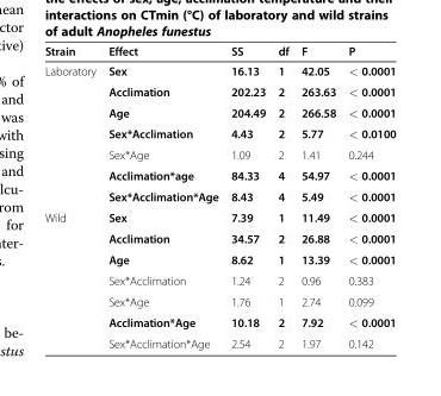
<table><thead><tr><td>Strain</td><td>Effect</td><td>SS</td><td>df</td><td>F</td><td>P</td></tr></thead><tbody><tr><td rowspan="7">Laboratory</td><td>Sex</td><td>16.13</td><td>1</td><td>42.05</td><td>&lt; 0.0001</td></tr><tr><td>Acclimation</td><td>202.23</td><td>2</td><td>263.63</td><td>&lt; 0.0001</td></tr><tr><td>Age</td><td>204.49</td><td>2</td><td>266.58</td><td>&lt; 0.0001</td></tr><tr><td>Sex*Acclimation</td><td>4.43</td><td>2</td><td>5.77</td><td>&lt; 0.0100</td></tr><tr><td>Sex*Age</td><td>1.09</td><td>2</td><td>1.41</td><td>0.244</td></tr><tr><td>Acclimation*age</td><td>84.33</td><td>4</td><td>54.97</td><td>&lt; 0.0001</td></tr><tr><td>Sex*Acclimation*Age</td><td>8.43</td><td>4</td><td>5.49</td><td>&lt; 0.0001</td></tr><tr><td rowspan="7">Wild</td><td>Sex</td><td>7.39</td><td>1</td><td>11.49</td><td>&lt; 0.0001</td></tr><tr><td>Acclimation</td><td>34.57</td><td>2</td><td>26.88</td><td>&lt; 0.0001</td></tr><tr><td>Age</td><td>8.62</td><td>1</td><td>13.39</td><td>&lt; 0.0001</td></tr><tr><td>Sex*Acclimation</td><td>1.24</td><td>2</td><td>0.96</td><td>0.383</td></tr><tr><td>Sex*Age</td><td>1.76</td><td>1</td><td>2.74</td><td>0.099</td></tr><tr><td>Acclimation*Age</td><td>10.18</td><td>2</td><td>7.92</td><td>&lt; 0.0001</td></tr><tr><td>Sex*Acclimation*Age</td><td>2.54</td><td>2</td><td>1.97</td><td>0.142</td></tr></tbody></table>